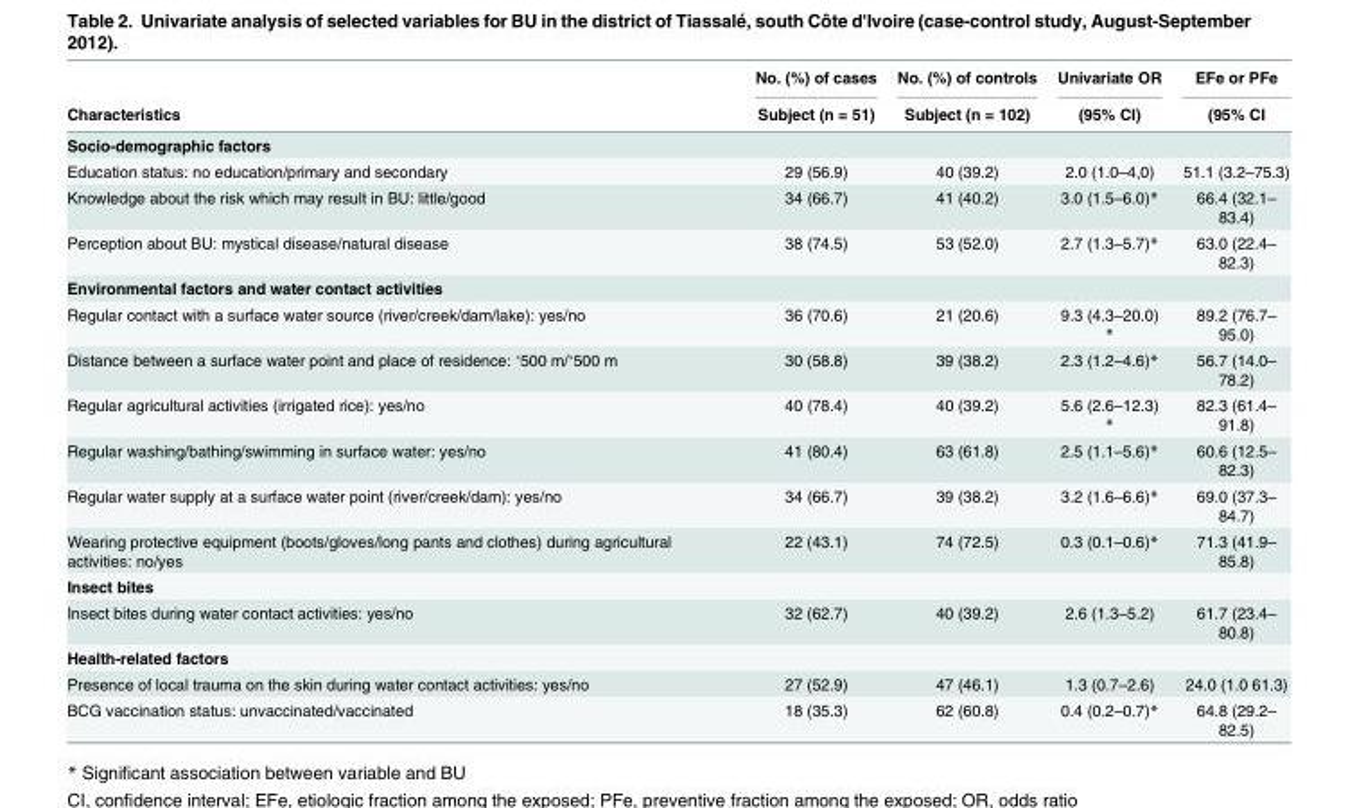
<table><thead><tr><td rowspan="2">Characteristics</td><td rowspan="2">No. (%) of cases Subject (n = 51)</td><td rowspan="2">No. (%) of controls Subject (n = 102)</td><td rowspan="2">Univariate OR (95% CI)</td><td rowspan="2">EFe or PFe (95% CI</td></tr><tr></tr></thead><tbody><tr><td colspan="5">Socio-demographic factors</td></tr><tr><td>Education status: no education/primary and secondary</td><td>29 (56.9)</td><td>40 (39.2)</td><td>2.0 (1.0–4,0)</td><td>51.1 (3.2–75.3)</td></tr><tr><td>Knowledge about the risk which may result in BU: little/good</td><td>34 (66.7)</td><td>41 (40.2)</td><td>3.0 (1.5–6.0)*</td><td>66.4 (32.1– 83.4)</td></tr><tr><td>Perception about BU: mystical disease/natural disease</td><td>38 (74.5)</td><td>53 (52.0)</td><td>2.7 (1.3–5.7)*</td><td>63.0 (22.4– 82.3)</td></tr><tr><td colspan="5">Environmental factors and water contact activities</td></tr><tr><td>Regular contact with a surface water source (river/creek/dam/lake): yes/no</td><td>36 (70.6)</td><td>21 (20.6)</td><td>9.3 (4.3–20.0) *</td><td>89.2 (76.7– 95.0)</td></tr><tr><td>Distance between a surface water point and place of residence: ˂500 m/˃500 m</td><td>30 (58.8)</td><td>39 (38.2)</td><td>2.3 (1.2–4.6)*</td><td>56.7 (14.0– 78.2)</td></tr><tr><td>Regular agricultural activities (irrigated rice): yes/no</td><td>40 (78.4)</td><td>40 (39.2)</td><td>5.6 (2.6–12.3) *</td><td>82.3 (61.4– 91.8)</td></tr><tr><td>Regular washing/bathing/swimming in surface water: yes/no</td><td>41 (80.4)</td><td>63 (61.8)</td><td>2.5 (1.1–5.6)*</td><td>60.6 (12.5– 82.3)</td></tr><tr><td>Regular water supply at a surface water point (river/creek/dam): yes/no</td><td>34 (66.7)</td><td>39 (38.2)</td><td>3.2 (1.6–6.6)*</td><td>69.0 (37.3– 84.7)</td></tr><tr><td>Wearing protective equipment (boots/gloves/long pants and clothes) during agricultural activities: no/yes</td><td>22 (43.1)</td><td>74 (72.5)</td><td>0.3 (0.1–0.6)*</td><td>71.3 (41.9– 85.8)</td></tr><tr><td colspan="5">Insect bites</td></tr><tr><td>Insect bites during water contact activities: yes/no</td><td>32 (62.7)</td><td>40 (39.2)</td><td>2.6 (1.3–5.2)</td><td>61.7 (23.4– 80.8)</td></tr><tr><td colspan="5">Health-related factors</td></tr><tr><td>Presence of local trauma on the skin during water contact activities: yes/no</td><td>27 (52.9)</td><td>47 (46.1)</td><td>1.3 (0.7–2.6)</td><td>24.0 (1.0 61.3)</td></tr><tr><td>BCG vaccination status: unvaccinated/vaccinated</td><td>18 (35.3)</td><td>62 (60.8)</td><td>0.4 (0.2–0.7)*</td><td>64.8 (29.2– 82.5)</td></tr></tbody></table>